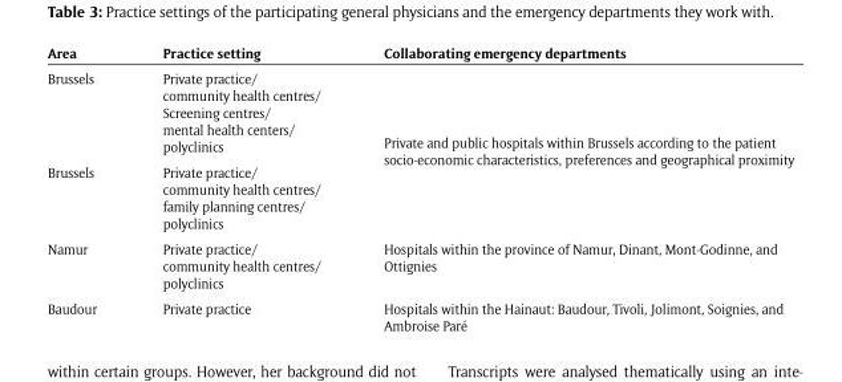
<table><thead><tr><td>Area</td><td>Practice setting</td><td>Collaborating emergency departments</td></tr></thead><tbody><tr><td>Brussels</td><td>Private practice/ community health centres/ Screening centres/ mental health centers/ polyclinics</td><td rowspan="2">Private and public hospitals within Brussels according to the patient socio-economic characteristics, preferences and geographical proximity</td></tr><tr><td>Brussels</td><td>Private practice/ community health centres/ family planning centres/ polyclinics</td></tr><tr><td>Namur</td><td>Private practice/ community health centres/ polyclinics</td><td>Hospitals within the province of Namur, Dinant, Mont-Godinne, and Ottignies</td></tr><tr><td>Baudour</td><td>Private practice</td><td>Hospitals within the Hainaut: Baudour, Tivoli, Jolimont, Soignies, and Ambroise Paré</td></tr></tbody></table>